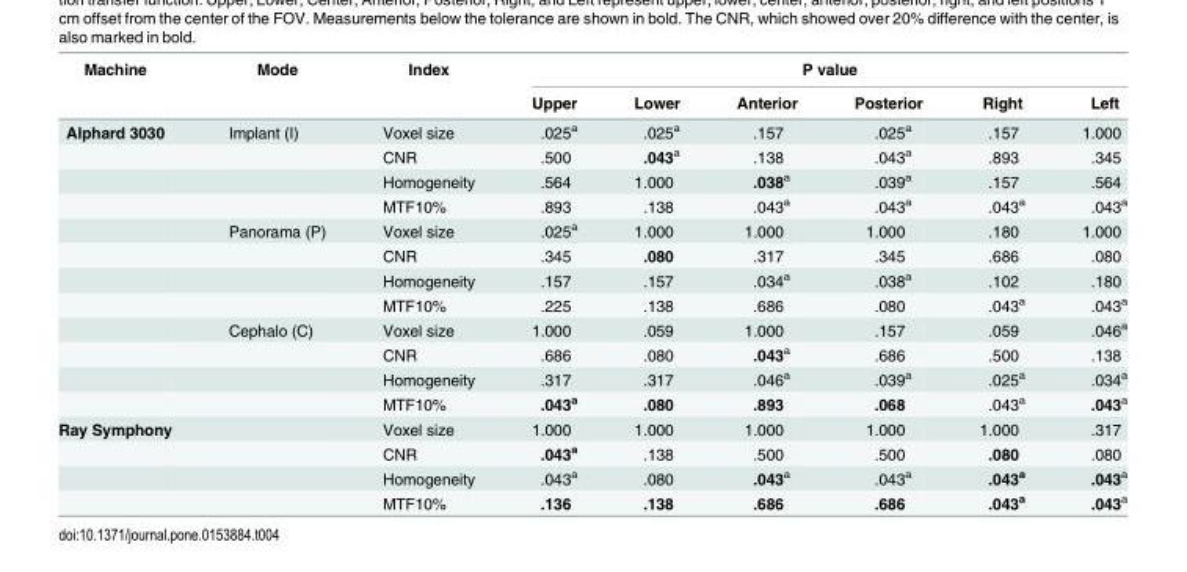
<table><thead><tr><td rowspan="2">Machine</td><td rowspan="2">Mode</td><td rowspan="2">Index</td><td colspan="6">P value</td></tr><tr><td>Upper</td><td>Lower</td><td>Anterior</td><td>Posterior</td><td>Right</td><td>Left</td></tr></thead><tbody><tr><td rowspan="12">Alphard 3030</td><td>Implant (I)</td><td>Voxel size</td><td>.025<sup>a</sup></td><td>.025<sup>a</sup></td><td>.157</td><td>.025<sup>a</sup></td><td>.157</td><td>1.000</td></tr><tr><td></td><td>CNR</td><td>.500</td><td>.043<sup>a</sup></td><td>.138</td><td>.043<sup>a</sup></td><td>.893</td><td>.345</td></tr><tr><td></td><td>Homogeneity</td><td>.564</td><td>1.000</td><td>.038<sup>a</sup></td><td>.039<sup>a</sup></td><td>.157</td><td>.564</td></tr><tr><td></td><td>MTF10%</td><td>.893</td><td>.138</td><td>.043<sup>a</sup></td><td>.043<sup>a</sup></td><td>.043<sup>a</sup></td><td>.043<sup>a</sup></td></tr><tr><td>Panorama (P)</td><td>Voxel size</td><td>.025<sup>a</sup></td><td>1.000</td><td>1.000</td><td>1.000</td><td>.180</td><td>1.000</td></tr><tr><td></td><td>CNR</td><td>.345</td><td>.080</td><td>.317</td><td>.345</td><td>.686</td><td>.080</td></tr><tr><td></td><td>Homogeneity</td><td>.157</td><td>.157</td><td>.034<sup>a</sup></td><td>.038<sup>a</sup></td><td>.102</td><td>.180</td></tr><tr><td></td><td>MTF10%</td><td>.225</td><td>.138</td><td>.686</td><td>.080</td><td>.043<sup>a</sup></td><td>.043<sup>a</sup></td></tr><tr><td>Cephalo (C)</td><td>Voxel size</td><td>1.000</td><td>.059</td><td>1.000</td><td>.157</td><td>.059</td><td>.046<sup>a</sup></td></tr><tr><td></td><td>CNR</td><td>.686</td><td>.080</td><td>.043<sup>a</sup></td><td>.686</td><td>.500</td><td>.138</td></tr><tr><td></td><td>Homogeneity</td><td>.317</td><td>.317</td><td>.046<sup>a</sup></td><td>.039<sup>a</sup></td><td>.025<sup>a</sup></td><td>.034<sup>a</sup></td></tr><tr><td></td><td>MTF10%</td><td>.043<sup>a</sup></td><td>.080</td><td>.893</td><td>.068</td><td>.043<sup>a</sup></td><td>.043<sup>a</sup></td></tr><tr><td rowspan="4">Ray Symphony</td><td></td><td>Voxel size</td><td>1.000</td><td>1.000</td><td>1.000</td><td>1.000</td><td>1.000</td><td>.317</td></tr><tr><td></td><td>CNR</td><td>.043<sup>a</sup></td><td>.138</td><td>.500</td><td>.500</td><td>.080</td><td>.080</td></tr><tr><td></td><td>Homogeneity</td><td>.043<sup>a</sup></td><td>.080</td><td>.043<sup>a</sup></td><td>.043<sup>a</sup></td><td>.043<sup>a</sup></td><td>.043<sup>a</sup></td></tr><tr><td></td><td>MTF10%</td><td>.136</td><td>.138</td><td>.686</td><td>.686</td><td>.043<sup>a</sup></td><td>.043<sup>a</sup></td></tr></tbody></table>